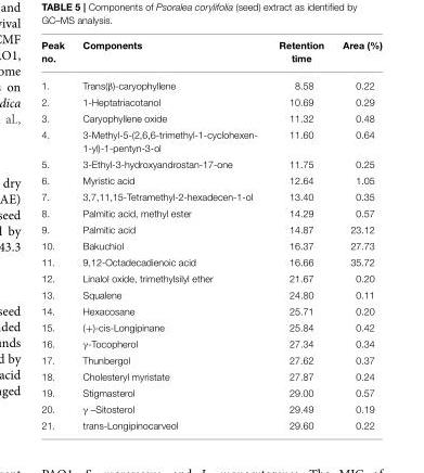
<table><thead><tr><td>Peak no.</td><td>Components</td><td>Retention time</td><td>Area (%)</td></tr></thead><tbody><tr><td>1.</td><td>Trans(β)-caryophyllene</td><td>8.58</td><td>0.22</td></tr><tr><td>2.</td><td>1-Heptatriacotanol</td><td>10.69</td><td>0.29</td></tr><tr><td>3.</td><td>Caryophyllene oxide</td><td>11.32</td><td>0.48</td></tr><tr><td>4.</td><td>3-Methyl-5-(2,6,6-trimethyl-1-cyclohexen- 1-yl)-1-pentyn-3-ol</td><td>11.60</td><td>0.64</td></tr><tr><td>5.</td><td>3-Ethyl-3-hydroxyandrostan-17-one</td><td>11.75</td><td>0.25</td></tr><tr><td>6.</td><td>Myristic acid</td><td>12.64</td><td>1.05</td></tr><tr><td>7.</td><td>3,7,11,15-Tetramethyl-2-hexadecen-1-ol</td><td>13.40</td><td>0.35</td></tr><tr><td>8.</td><td>Palmitic acid, methyl ester</td><td>14.29</td><td>0.57</td></tr><tr><td>9.</td><td>Palmitic acid</td><td>14.87</td><td>23.12</td></tr><tr><td>10.</td><td>Bakuchiol</td><td>16.37</td><td>27.73</td></tr><tr><td>11.</td><td>9,12-Octadecadienoic acid</td><td>16.66</td><td>35.72</td></tr><tr><td>12.</td><td>Linalol oxide, trimethylsilyl ether</td><td>21.67</td><td>0.20</td></tr><tr><td>13.</td><td>Squalene</td><td>24.80</td><td>0.11</td></tr><tr><td>14.</td><td>Hexacosane</td><td>25.71</td><td>0.20</td></tr><tr><td>15.</td><td>(+)-cis-Longipinane</td><td>25.84</td><td>0.42</td></tr><tr><td>16.</td><td>γ-Tocopherol</td><td>27.34</td><td>0.34</td></tr><tr><td>17.</td><td>Thunbergol</td><td>27.62</td><td>0.37</td></tr><tr><td>18.</td><td>Cholesteryl myristate</td><td>27.87</td><td>0.24</td></tr><tr><td>19.</td><td>Stigmasterol</td><td>29.00</td><td>0.57</td></tr><tr><td>20.</td><td>γ –Sitosterol</td><td>29.49</td><td>0.19</td></tr><tr><td>21.</td><td>trans-Longipinocarveol</td><td>29.60</td><td>0.22</td></tr></tbody></table>